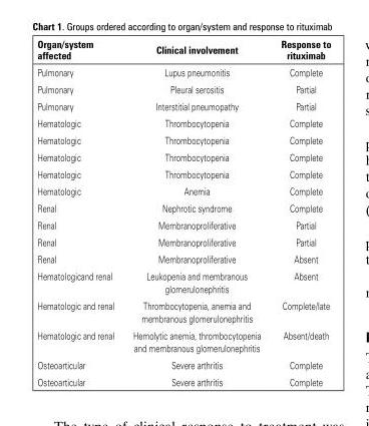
<table><thead><tr><td>Organ/system affected</td><td>Clinical involvement</td><td>Response to rituximab</td></tr></thead><tbody><tr><td>Pulmonary</td><td>Lupus pneumonitis</td><td>Complete</td></tr><tr><td>Pulmonary</td><td>Pleural serositis</td><td>Partial</td></tr><tr><td>Pulmonary</td><td>Interstitial pneumopathy</td><td>Partial</td></tr><tr><td>Hematologic</td><td>Thrombocytopenia</td><td>Complete</td></tr><tr><td>Hematologic</td><td>Thrombocytopenia</td><td>Complete</td></tr><tr><td>Hematologic</td><td>Thrombocytopenia</td><td>Complete</td></tr><tr><td>Hematologic</td><td>Thrombocytopenia</td><td>Complete</td></tr><tr><td>Hematologic</td><td>Anemia</td><td>Complete</td></tr><tr><td>Renal</td><td>Nephrotic syndrome</td><td>Complete</td></tr><tr><td>Renal</td><td>Membranoproliferative</td><td>Partial</td></tr><tr><td>Renal</td><td>Membranoproliferative</td><td>Partial</td></tr><tr><td>Renal</td><td>Membranoproliferative</td><td>Absent</td></tr><tr><td>Hematologicand renal</td><td>Leukopenia and membranous glomerulonephritis</td><td>Absent</td></tr><tr><td>Hematologic and renal</td><td>Thrombocytopenia, anemia and membranous glomerulonephritis</td><td>Complete/late</td></tr><tr><td>Hematologic and renal</td><td>Hemolytic anemia, thrombocytopenia and membranous glomerulonephritis</td><td>Absent/death</td></tr><tr><td>Osteoarticular</td><td>Severe arthritis</td><td>Complete</td></tr><tr><td>Osteoarticular</td><td>Severe arthritis</td><td>Complete</td></tr></tbody></table>